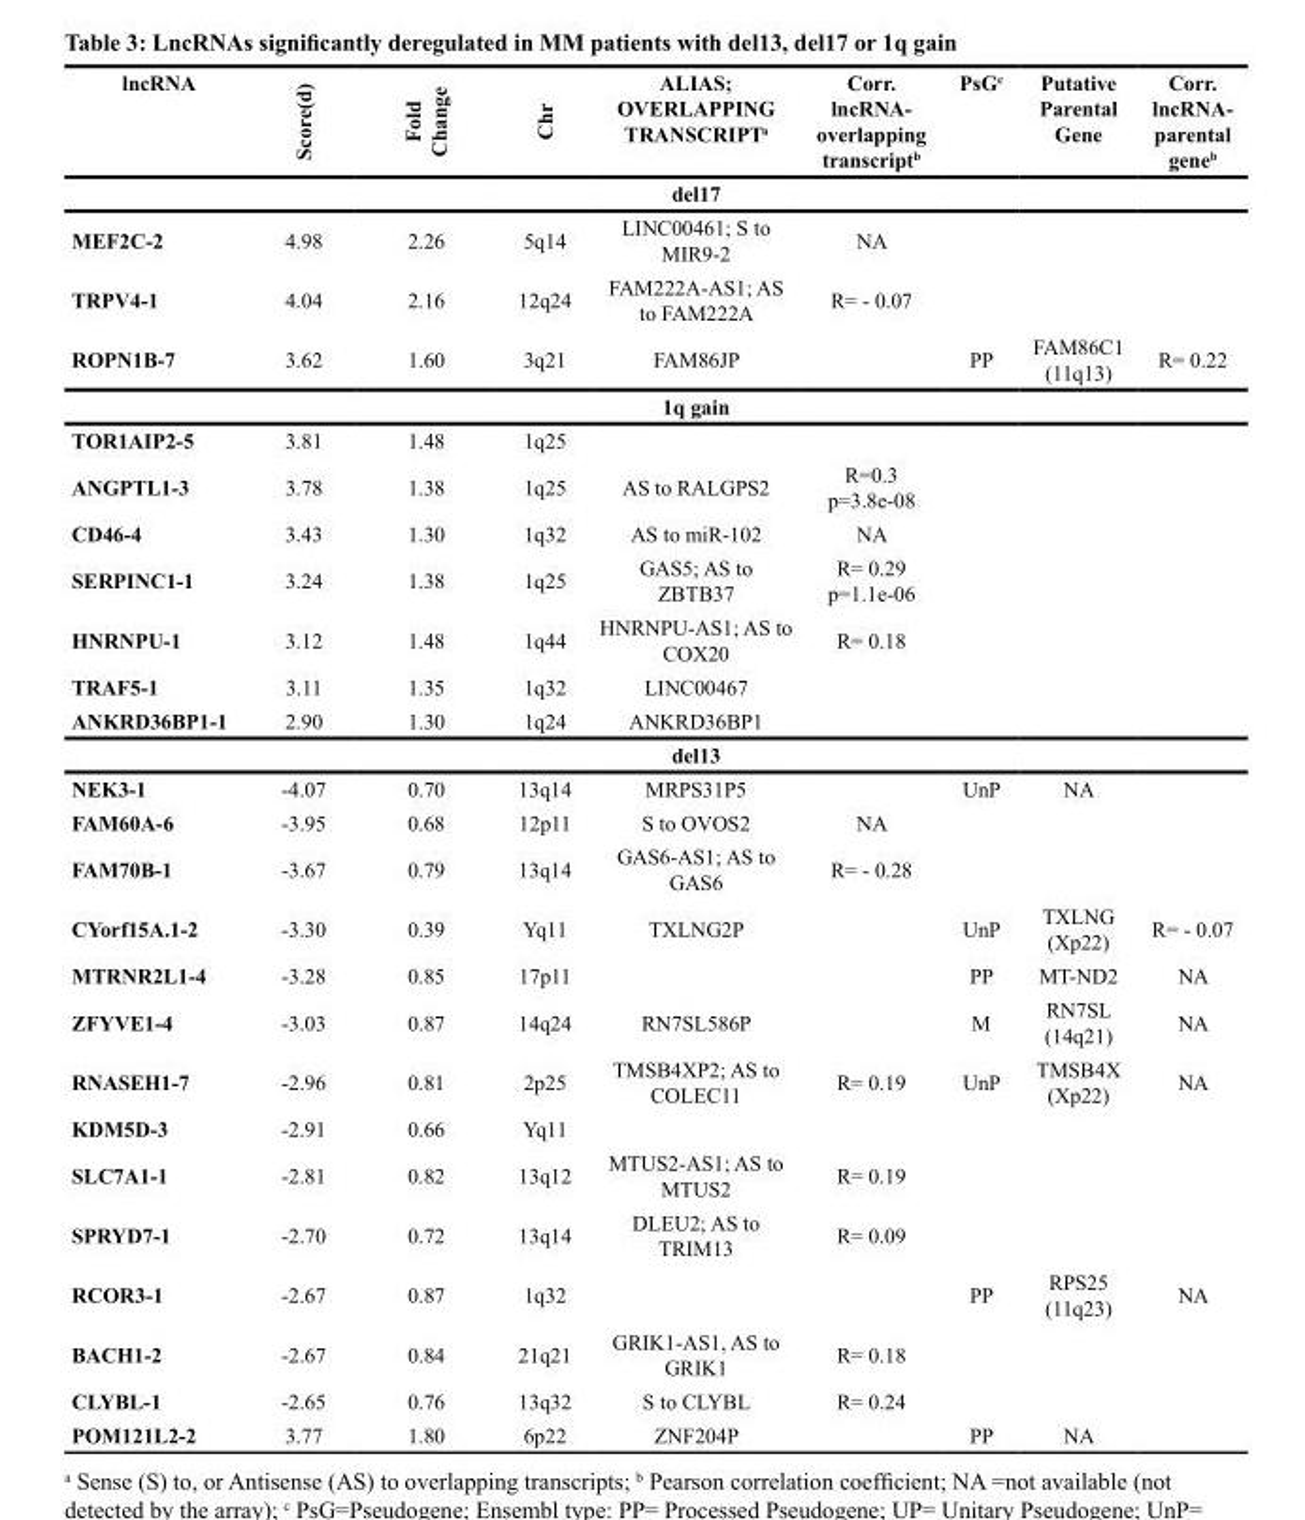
<table><thead><tr><td>lncRNA</td><td>Score(d)</td><td>Fold Change</td><td>Chr</td><td>ALIAS; OVERLAPPING TRANSCRIPT<sup>a</sup></td><td>Corr. lncRNA- overlapping transcript<sup>b</sup></td><td>PsG<sup>c</sup></td><td>Putative Parental Gene</td><td>Corr. lncRNA- parental gene<sup>b</sup></td></tr></thead><tbody><tr><td></td><td></td><td></td><td></td><td>del17</td><td></td><td></td><td></td><td></td></tr><tr><td>MEF2C-2</td><td>4.98</td><td>2.26</td><td>5q14</td><td>LINC00461; S to MIR9-2</td><td>NA</td><td></td><td></td><td></td></tr><tr><td>TRPV4-1</td><td>4.04</td><td>2.16</td><td>12q24</td><td>FAM222A-AS1; AS to FAM222A</td><td>R= - 0.07</td><td></td><td></td><td></td></tr><tr><td rowspan="2">ROPN1B-7</td><td>3.62</td><td>1.60</td><td>3q21</td><td>FAM86JP</td><td></td><td>PP</td><td>FAM86C1 (11q13)</td><td>R= 0.22</td></tr><tr><td></td><td></td><td></td><td>1q gain</td><td></td><td></td><td></td><td></td></tr><tr><td>TOR1AIP2-5</td><td>3.81</td><td>1.48</td><td>1q25</td><td></td><td></td><td></td><td></td><td></td></tr><tr><td>ANGPTL1-3</td><td>3.78</td><td>1.38</td><td>1q25</td><td>AS to RALGPS2</td><td>R=0.3 p=3.8e-08</td><td></td><td></td><td></td></tr><tr><td>CD46-4</td><td>3.43</td><td>1.30</td><td>1q32</td><td>AS to miR-102</td><td>NA</td><td></td><td></td><td></td></tr><tr><td>SERPINC1-1</td><td>3.24</td><td>1.38</td><td>1q25</td><td>GAS5; AS to ZBTB37</td><td>R= 0.29 p=1.1e-06</td><td></td><td></td><td></td></tr><tr><td>HNRNPU-1</td><td>3.12</td><td>1.48</td><td>1q44</td><td>HNRNPU-AS1; AS to COX20</td><td>R= 0.18</td><td></td><td></td><td></td></tr><tr><td>TRAF5-1</td><td>3.11</td><td>1.35</td><td>1q32</td><td>LINC00467</td><td></td><td></td><td></td><td></td></tr><tr><td rowspan="2">ANKRD36BP1-1</td><td>2.90</td><td>1.30</td><td>1q24</td><td>ANKRD36BP1</td><td></td><td></td><td></td><td></td></tr><tr><td></td><td></td><td></td><td>del13</td><td></td><td></td><td></td><td></td></tr><tr><td>NEK3-1</td><td>-4.07</td><td>0.70</td><td>13q14</td><td>MRPS31P5</td><td></td><td>UnP</td><td>NA</td><td></td></tr><tr><td>FAM60A-6</td><td>-3.95</td><td>0.68</td><td>12p11</td><td>S to OVOS2</td><td>NA</td><td></td><td></td><td></td></tr><tr><td>FAM70B-1</td><td>-3.67</td><td>0.79</td><td>13q14</td><td>GAS6-AS1; AS to GAS6</td><td>R= - 0.28</td><td></td><td></td><td></td></tr><tr><td>CYorf15A.1-2</td><td>-3.30</td><td>0.39</td><td>Yq11</td><td>TXLNG2P</td><td></td><td>UnP</td><td>TXLNG (Xp22)</td><td>R= - 0.07</td></tr><tr><td>MTRNR2L1-4</td><td>-3.28</td><td>0.85</td><td>17p11</td><td></td><td></td><td>PP</td><td>MT-ND2</td><td>NA</td></tr><tr><td>ZFYVE1-4</td><td>-3.03</td><td>0.87</td><td>14q24</td><td>RN7SL586P</td><td></td><td>M</td><td>RN7SL (14q21)</td><td>NA</td></tr><tr><td>RNASEH1-7</td><td>-2.96</td><td>0.81</td><td>2p25</td><td>TMSB4XP2; AS to COLEC11</td><td>R= 0.19</td><td>UnP</td><td>TMSB4X (Xp22)</td><td>NA</td></tr><tr><td>KDM5D-3</td><td>-2.91</td><td>0.66</td><td>Yq11</td><td></td><td></td><td></td><td></td><td></td></tr><tr><td>SLC7A1-1</td><td>-2.81</td><td>0.82</td><td>13q12</td><td>MTUS2-AS1; AS to MTUS2</td><td>R= 0.19</td><td></td><td></td><td></td></tr><tr><td>SPRYD7-1</td><td>-2.70</td><td>0.72</td><td>13q14</td><td>DLEU2; AS to TRIM13</td><td>R= 0.09</td><td></td><td></td><td></td></tr><tr><td>RCOR3-1</td><td>-2.67</td><td>0.87</td><td>1q32</td><td></td><td></td><td>PP</td><td>RPS25 (11q23)</td><td>NA</td></tr><tr><td>BACH1-2</td><td>-2.67</td><td>0.84</td><td>21q21</td><td>GRIK1-AS1, AS to GRIK1</td><td>R= 0.18</td><td></td><td></td><td></td></tr><tr><td>CLYBL-1</td><td>-2.65</td><td>0.76</td><td>13q32</td><td>S to CLYBL</td><td>R= 0.24</td><td></td><td></td><td></td></tr><tr><td>POM121L2-2</td><td>3.77</td><td>1.80</td><td>6p22</td><td>ZNF204P</td><td></td><td>PP</td><td>NA</td><td></td></tr></tbody></table>